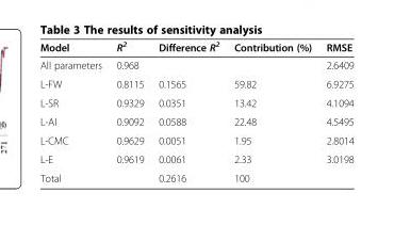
<table><thead><tr><td>Model</td><td>R<sup>2</sup></td><td>Difference R<sup>2</sup></td><td>Contribution (%)</td><td>RMSE</td></tr></thead><tbody><tr><td>All parameters</td><td>0.968</td><td></td><td></td><td>2.6409</td></tr><tr><td>L-FW</td><td>0.8115</td><td>0.1565</td><td>59.82</td><td>6.9275</td></tr><tr><td>L-SR</td><td>0.9329</td><td>0.0351</td><td>13.42</td><td>4.1094</td></tr><tr><td>L-AI</td><td>0.9092</td><td>0.0588</td><td>22.48</td><td>4.5495</td></tr><tr><td>L-CMC</td><td>0.9629</td><td>0.0051</td><td>1.95</td><td>2.8014</td></tr><tr><td>L-E</td><td>0.9619</td><td>0.0061</td><td>2.33</td><td>3.0198</td></tr><tr><td>Total</td><td></td><td>0.2616</td><td>100</td><td></td></tr></tbody></table>